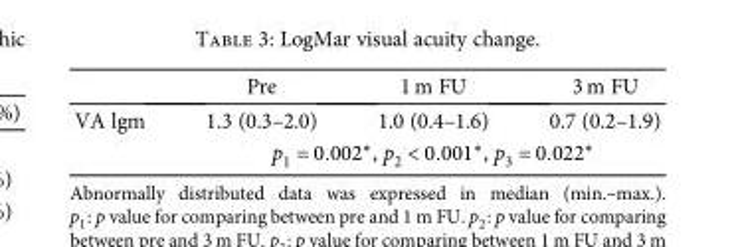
<table><thead><tr><td></td><td>Pre</td><td>1 m FU</td><td>3 m FU</td></tr></thead><tbody><tr><td rowspan="2">VA lgm</td><td>1.3 (0.3–2.0)</td><td>1.0 (0.4–1.6)</td><td>0.7 (0.2–1.9)</td></tr><tr><td colspan="3">p1 = 0 002∗, p2 &lt; 0 001∗, p3 = 0 022∗</td></tr></tbody></table>